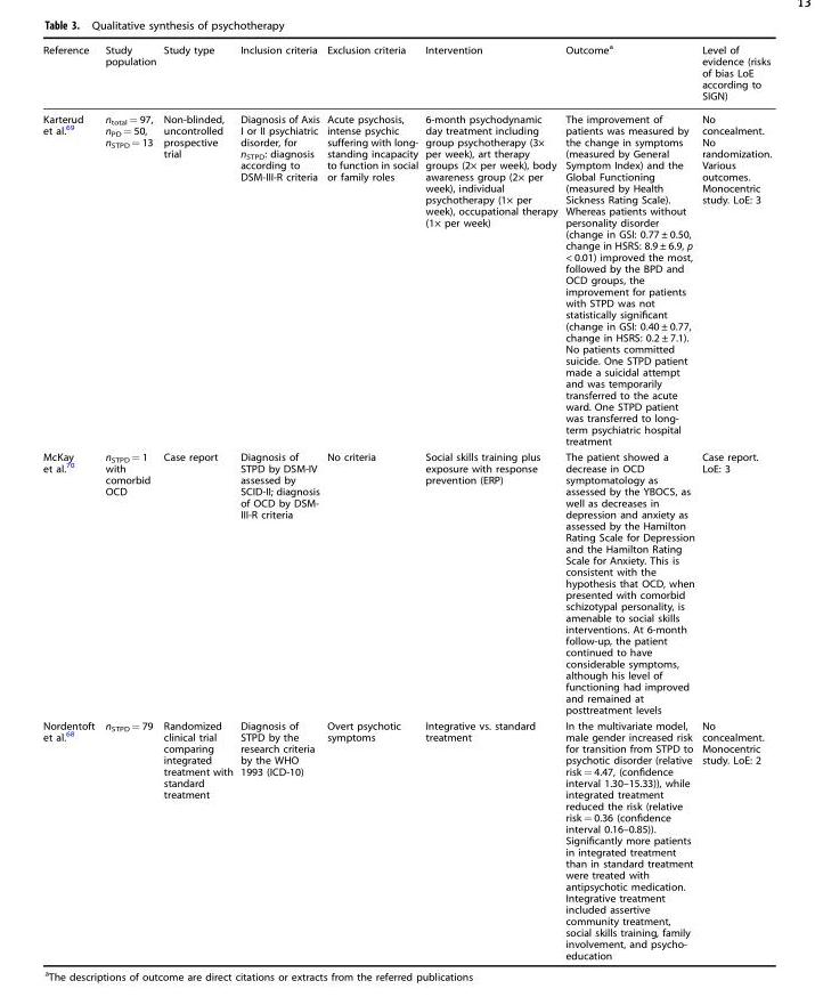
<table><thead><tr><td>Reference</td><td>Study population</td><td>Study type</td><td>Inclusion criteria</td><td>Exclusion criteria</td><td>Intervention</td><td>Outcome<sup>a</sup></td><td>Level of evidence (risks of bias LoE according to SIGN)</td></tr></thead><tbody><tr><td>Karterud et al.<sup>69</sup></td><td>n<sub>total</sub> = 97, n<sub>PD</sub> = 50, n<sub>STPD</sub> = 13</td><td>Non-blinded, uncontrolled prospective trial</td><td>Diagnosis of Axis I or II psychiatric disorder, for n<sub>STPD</sub>: diagnosis according to DSM-III-R criteria</td><td>Acute psychosis, intense psychic suffering with long- standing incapacity to function in social or family roles</td><td>6-month psychodynamic day treatment including group psychotherapy (3× per week), art therapy groups (2× per week), body awareness group (2× per week), individual psychotherapy (1× per week), occupational therapy (1× per week)</td><td>The improvement of patients was measured by the change in symptoms (measured by General Symptom Index) and the Global Functioning (measured by Health Sickness Rating Scale). Whereas patients without personality disorder (change in GSI: 0.77 ± 0.50, change in HSRS: 8.9 ± 6.9, p &lt; 0.01) improved the most, followed by the BPD and OCD groups, the improvement for patients with STPD was not statistically significant (change in GSI: 0.40 ± 0.77, change in HSRS: 0.2 ± 7.1). No patients committed suicide. One STPD patient made a suicidal attempt and was temporarily transferred to the acute ward. One STPD patient was transferred to long- term psychiatric hospital treatment</td><td>No concealment. No randomization. Various outcomes. Monocentric study. LoE: 3</td></tr><tr><td>McKay et al.<sup>70</sup></td><td>n<sub>STPD</sub> = 1 with comorbid OCD</td><td>Case report</td><td>Diagnosis of STPD by DSM-IV assessed by SCID-II; diagnosis of OCD by DSM- III-R criteria</td><td>No criteria</td><td>Social skills training plus exposure with response prevention (ERP)</td><td>The patient showed a decrease in OCD symptomatology as assessed by the YBOCS, as well as decreases in depression and anxiety as assessed by the Hamilton Rating Scale for Depression and the Hamilton Rating Scale for Anxiety. This is consistent with the hypothesis that OCD, when presented with comorbid schizotypal personality, is amenable to social skills interventions. At 6-month follow-up, the patient continued to have considerable symptoms, although his level of functioning had improved and remained at posttreatment levels</td><td>Case report. LoE: 3</td></tr><tr><td>Nordentoft et al.<sup>68</sup></td><td>n<sub>STPD</sub> = 79</td><td>Randomized clinical trial comparing integrated treatment with standard treatment</td><td>Diagnosis of STPD by the research criteria by the WHO 1993 (ICD-10)</td><td>Overt psychotic symptoms</td><td>Integrative vs. standard treatment</td><td>In the multivariate model, male gender increased risk for transition from STPD to psychotic disorder (relative risk = 4.47, (confidence interval 1.30–15.33)), while integrated treatment reduced the risk (relative risk = 0.36 (confidence interval 0.16–0.85)). Significantly more patients in integrated treatment than in standard treatment were treated with antipsychotic medication. Integrative treatment included assertive community treatment, social skills training, family involvement, and psycho- education</td><td>No concealment. Monocentric study. LoE: 2</td></tr></tbody></table>